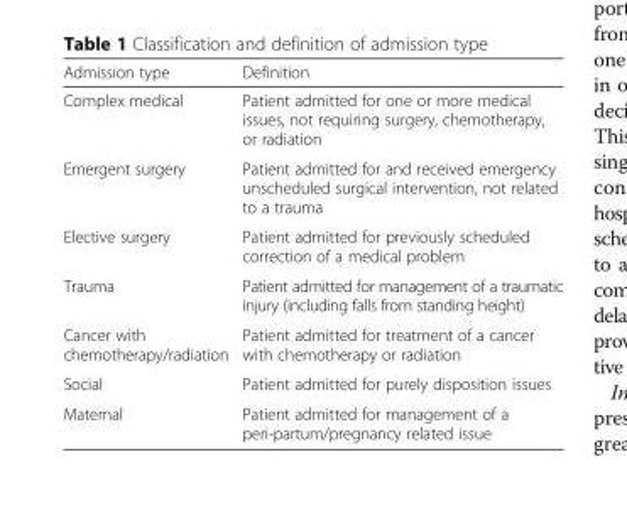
<table><thead><tr><td>Admission type</td><td>Definition</td></tr></thead><tbody><tr><td>Complex medical</td><td>Patient admitted for one or more medical issues, not requiring surgery, chemotherapy, or radiation</td></tr><tr><td>Emergent surgery</td><td>Patient admitted for and received emergency unscheduled surgical intervention, not related to a trauma</td></tr><tr><td>Elective surgery</td><td>Patient admitted for previously scheduled correction of a medical problem</td></tr><tr><td>Trauma</td><td>Patient admitted for management of a traumatic injury (including falls from standing height)</td></tr><tr><td>Cancer with chemotherapy/radiation</td><td>Patient admitted for treatment of a cancer with chemotherapy or radiation</td></tr><tr><td>Social</td><td>Patient admitted for purely disposition issues</td></tr><tr><td>Maternal</td><td>Patient admitted for management of a peri-partum/pregnancy related issue</td></tr></tbody></table>